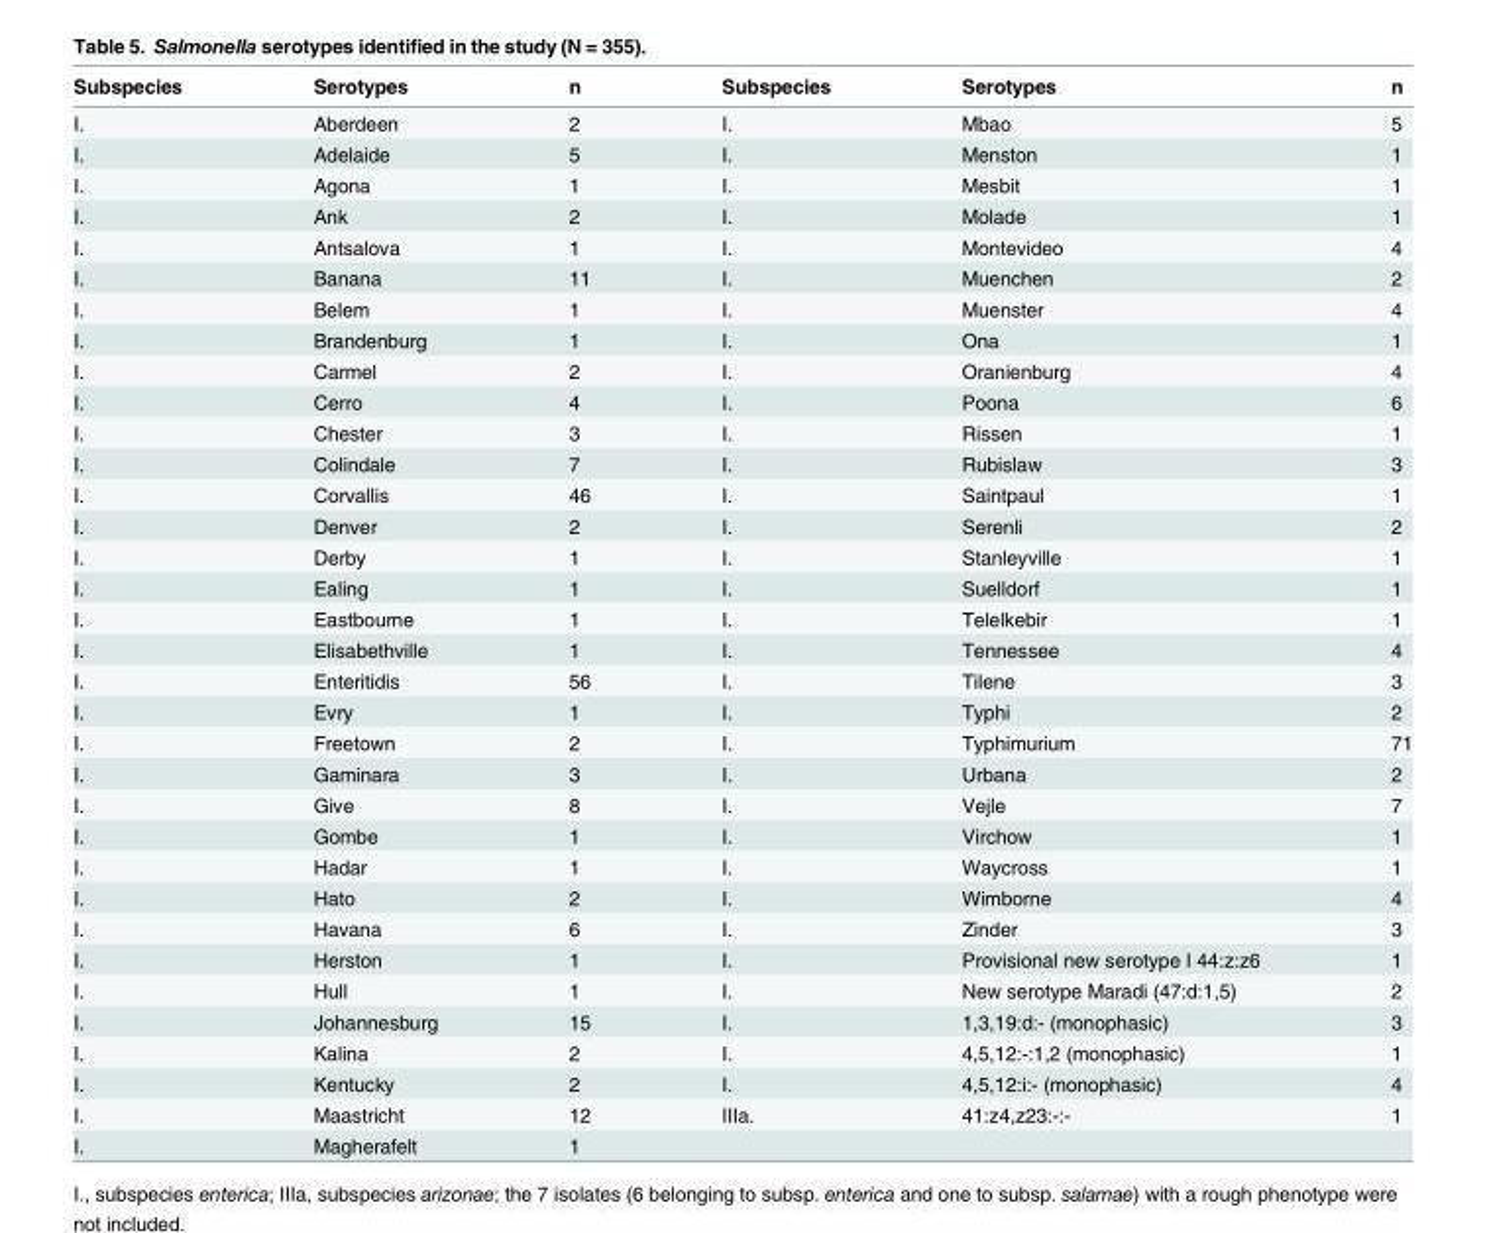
<table><thead><tr><td>Subspecies</td><td>Serotypes</td><td>n</td><td>Subspecies</td><td>Serotypes</td><td>n</td></tr></thead><tbody><tr><td>I.</td><td>Aberdeen</td><td>2</td><td>I.</td><td>Mbao</td><td>5</td></tr><tr><td>I.</td><td>Adelaide</td><td>5</td><td>I.</td><td>Menston</td><td>1</td></tr><tr><td>I.</td><td>Agona</td><td>1</td><td>I.</td><td>Mesbit</td><td>1</td></tr><tr><td>I.</td><td>Ank</td><td>2</td><td>I.</td><td>Molade</td><td>1</td></tr><tr><td>I.</td><td>Antsalova</td><td>1</td><td>I.</td><td>Montevideo</td><td>4</td></tr><tr><td>I.</td><td>Banana</td><td>11</td><td>I.</td><td>Muenchen</td><td>2</td></tr><tr><td>I.</td><td>Belem</td><td>1</td><td>I.</td><td>Muenster</td><td>4</td></tr><tr><td>I.</td><td>Brandenburg</td><td>1</td><td>I.</td><td>Ona</td><td>1</td></tr><tr><td>I.</td><td>Carmel</td><td>2</td><td>I.</td><td>Oranienburg</td><td>4</td></tr><tr><td>I.</td><td>Cerro</td><td>4</td><td>I.</td><td>Poona</td><td>6</td></tr><tr><td>I.</td><td>Chester</td><td>3</td><td>I.</td><td>Rissen</td><td>1</td></tr><tr><td>I.</td><td>Colindale</td><td>7</td><td>I.</td><td>Rubislaw</td><td>3</td></tr><tr><td>I.</td><td>Corvallis</td><td>46</td><td>I.</td><td>Saintpaul</td><td>1</td></tr><tr><td>I.</td><td>Denver</td><td>2</td><td>I.</td><td>Serenli</td><td>2</td></tr><tr><td>I.</td><td>Derby</td><td>1</td><td>I.</td><td>Stanleyville</td><td>1</td></tr><tr><td>I.</td><td>Ealing</td><td>1</td><td>I.</td><td>Suelldorf</td><td>1</td></tr><tr><td>I.</td><td>Eastbourne</td><td>1</td><td>I.</td><td>Telelkebir</td><td>1</td></tr><tr><td>I.</td><td>Elisabethville</td><td>1</td><td>I.</td><td>Tennessee</td><td>4</td></tr><tr><td>I.</td><td>Enteritidis</td><td>56</td><td>I.</td><td>Tilene</td><td>3</td></tr><tr><td>I.</td><td>Evry</td><td>1</td><td>I.</td><td>Typhi</td><td>2</td></tr><tr><td>I.</td><td>Freetown</td><td>2</td><td>I.</td><td>Typhimurium</td><td>71</td></tr><tr><td>I.</td><td>Gaminara</td><td>3</td><td>I.</td><td>Urbana</td><td>2</td></tr><tr><td>I.</td><td>Give</td><td>8</td><td>I.</td><td>Vejle</td><td>7</td></tr><tr><td>I.</td><td>Gombe</td><td>1</td><td>I.</td><td>Virchow</td><td>1</td></tr><tr><td>I.</td><td>Hadar</td><td>1</td><td>I.</td><td>Waycross</td><td>1</td></tr><tr><td>I.</td><td>Hato</td><td>2</td><td>I.</td><td>Wimborne</td><td>4</td></tr><tr><td>I.</td><td>Havana</td><td>6</td><td>I.</td><td>Zinder</td><td>3</td></tr><tr><td>I.</td><td>Herston</td><td>1</td><td>I.</td><td>Provisional new serotype I 44:z:z6</td><td>1</td></tr><tr><td>I.</td><td>Hull</td><td>1</td><td>I.</td><td>New serotype Maradi (47:d:1,5)</td><td>2</td></tr><tr><td>I.</td><td>Johannesburg</td><td>15</td><td>I.</td><td>1,3,19:d:- (monophasic)</td><td>3</td></tr><tr><td>I.</td><td>Kalina</td><td>2</td><td>I.</td><td>4,5,12:-:1,2 (monophasic)</td><td>1</td></tr><tr><td>I.</td><td>Kentucky</td><td>2</td><td>I.</td><td>4,5,12:i:- (monophasic)</td><td>4</td></tr><tr><td>I.</td><td>Maastricht</td><td>12</td><td>IIIa.</td><td>41:z4,z23:-:-</td><td>1</td></tr><tr><td>I.</td><td>Magherafelt</td><td>1</td><td></td><td></td><td></td></tr></tbody></table>